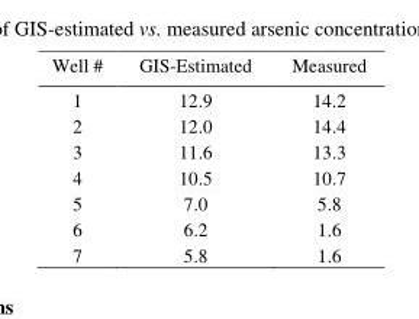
<table><thead><tr><td>Well #</td><td>GIS-Estimated</td><td>Measured</td></tr></thead><tbody><tr><td>1</td><td>12.9</td><td>14.2</td></tr><tr><td>2</td><td>12.0</td><td>14.4</td></tr><tr><td>3</td><td>11.6</td><td>13.3</td></tr><tr><td>4</td><td>10.5</td><td>10.7</td></tr><tr><td>5</td><td>7.0</td><td>5.8</td></tr><tr><td>6</td><td>6.2</td><td>1.6</td></tr><tr><td>7</td><td>5.8</td><td>1.6</td></tr></tbody></table>